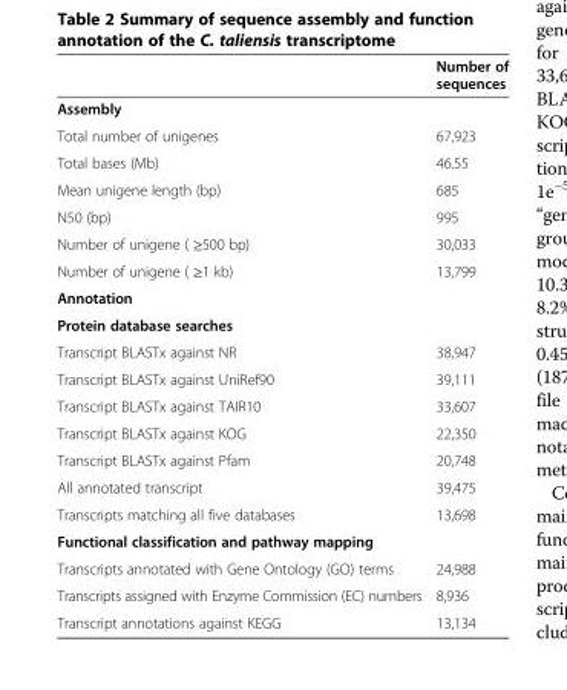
<table><thead><tr><td></td><td>Number of sequences</td></tr></thead><tbody><tr><td colspan="2">Assembly</td></tr><tr><td>Total number of unigenes</td><td>67,923</td></tr><tr><td>Total bases (Mb)</td><td>46.55</td></tr><tr><td>Mean unigene length (bp)</td><td>685</td></tr><tr><td>N50 (bp)</td><td>995</td></tr><tr><td>Number of unigene ( ≥500 bp)</td><td>30,033</td></tr><tr><td>Number of unigene ( ≥1 kb)</td><td>13,799</td></tr><tr><td colspan="2">Annotation</td></tr><tr><td colspan="2">Protein database searches</td></tr><tr><td>Transcript BLASTx against NR</td><td>38,947</td></tr><tr><td>Transcript BLASTx against UniRef90</td><td>39,111</td></tr><tr><td>Transcript BLASTx against TAIR10</td><td>33,607</td></tr><tr><td>Transcript BLASTx against KOG</td><td>22,350</td></tr><tr><td>Transcript BLASTx against Pfam</td><td>20,748</td></tr><tr><td>All annotated transcript</td><td>39,475</td></tr><tr><td>Transcripts matching all five databases</td><td>13,698</td></tr><tr><td colspan="2">Functional classification and pathway mapping</td></tr><tr><td>Transcripts annotated with Gene Ontology (GO) terms</td><td>24,988</td></tr><tr><td>Transcripts assigned with Enzyme Commission (EC) numbers</td><td>8,936</td></tr><tr><td>Transcript annotations against KEGG</td><td>13,134</td></tr></tbody></table>